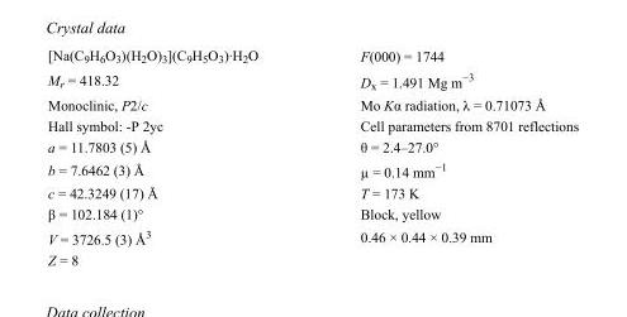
<table><tbody><tr><td>[Na(C<sub>9</sub>H<sub>6</sub>O<sub>3</sub>)(H<sub>2</sub>O)<sub>3</sub>](C<sub>9</sub>H<sub>5</sub>O<sub>3</sub>)·H<sub>2</sub>O</td><td>F(000) = 1744</td></tr><tr><td>M<sub>r</sub> = 418.32</td><td>D<sub>x</sub> = 1.491 Mg m<sup>−3</sup></td></tr><tr><td>Monoclinic, P2/c</td><td>Mo Kα radiation, λ = 0.71073 Å</td></tr><tr><td>Hall symbol: -P 2yc</td><td>Cell parameters from 8701 reflections</td></tr><tr><td>a = 11.7803 (5) Å</td><td>θ = 2.4–27.0°</td></tr><tr><td>b = 7.6462 (3) Å</td><td>µ = 0.14 mm<sup>−1</sup></td></tr><tr><td>c = 42.3249 (17) Å</td><td>T = 173 K</td></tr><tr><td>β = 102.184 (1)°</td><td>Block, yellow</td></tr><tr><td>V = 3726.5 (3) Å<sup>3</sup></td><td>0.46 × 0.44 × 0.39 mm</td></tr><tr><td>Z = 8</td><td></td></tr></tbody></table>